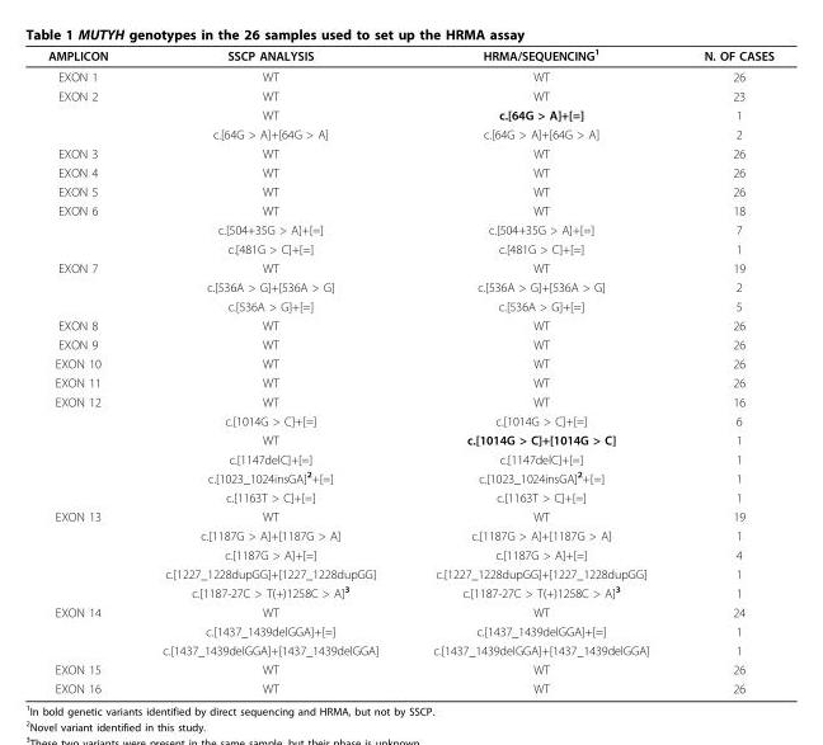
<table><thead><tr><td>AMPLICON</td><td>SSCP ANALYSIS</td><td>HRMA/SEQUENCING<sup>1</sup></td><td>N. OF CASES</td></tr></thead><tbody><tr><td>EXON 1</td><td>WT</td><td>WT</td><td>26</td></tr><tr><td rowspan="3">EXON 2</td><td>WT</td><td>WT</td><td>23</td></tr><tr><td>WT</td><td>c.[64G &gt; A]+[=]</td><td>1</td></tr><tr><td>c.[64G &gt; A]+[64G &gt; A]</td><td>c.[64G &gt; A]+[64G &gt; A]</td><td>2</td></tr><tr><td>EXON 3</td><td>WT</td><td>WT</td><td>26</td></tr><tr><td>EXON 4</td><td>WT</td><td>WT</td><td>26</td></tr><tr><td>EXON 5</td><td>WT</td><td>WT</td><td>26</td></tr><tr><td rowspan="3">EXON 6</td><td>WT</td><td>WT</td><td>18</td></tr><tr><td>c.[504+35G &gt; A]+[=]</td><td>c.[504+35G &gt; A]+[=]</td><td>7</td></tr><tr><td>c.[481G &gt; C]+[=]</td><td>c.[481G &gt; C]+[=]</td><td>1</td></tr><tr><td rowspan="3">EXON 7</td><td>WT</td><td>WT</td><td>19</td></tr><tr><td>c.[536A &gt; G]+[536A &gt; G]</td><td>c.[536A &gt; G]+[536A &gt; G]</td><td>2</td></tr><tr><td>c.[536A &gt; G]+[=]</td><td>c.[536A &gt; G]+[=]</td><td>5</td></tr><tr><td>EXON 8</td><td>WT</td><td>WT</td><td>26</td></tr><tr><td>EXON 9</td><td>WT</td><td>WT</td><td>26</td></tr><tr><td>EXON 10</td><td>WT</td><td>WT</td><td>26</td></tr><tr><td>EXON 11</td><td>WT</td><td>WT</td><td>26</td></tr><tr><td rowspan="6">EXON 12</td><td>WT</td><td>WT</td><td>16</td></tr><tr><td>c.[1014G &gt; C]+[=]</td><td>c.[1014G &gt; C]+[=]</td><td>6</td></tr><tr><td>WT</td><td>c.[1014G &gt; C]+[1014G &gt; C]</td><td>1</td></tr><tr><td>c.[1147delC]+[=]</td><td>c.[1147delC]+[=]</td><td>1</td></tr><tr><td>c.[1023_1024insGA]<sup>2</sup>+[=]</td><td>c.[1023_1024insGA]<sup>2</sup>+[=]</td><td>1</td></tr><tr><td>c.[1163T &gt; C]+[=]</td><td>c.[1163T &gt; C]+[=]</td><td>1</td></tr><tr><td rowspan="5">EXON 13</td><td>WT</td><td>WT</td><td>19</td></tr><tr><td>c.[1187G &gt; A]+[1187G &gt; A]</td><td>c.[1187G &gt; A]+[1187G &gt; A]</td><td>1</td></tr><tr><td>c.[1187G &gt; A]+[=]</td><td>c.[1187G &gt; A]+[=]</td><td>4</td></tr><tr><td>c.[1227_1228dupGG]+[1227_1228dupGG]</td><td>c.[1227_1228dupGG]+[1227_1228dupGG]</td><td>1</td></tr><tr><td>c.[1187-27C &gt; T(+)1258C &gt; A]<sup>3</sup></td><td>c.[1187-27C &gt; T(+)1258C &gt; A]<sup>3</sup></td><td>1</td></tr><tr><td rowspan="3">EXON 14</td><td>WT</td><td>WT</td><td>24</td></tr><tr><td>c.[1437_1439delGGA]+[=]</td><td>c.[1437_1439delGGA]+[=]</td><td>1</td></tr><tr><td>c.[1437_1439delGGA]+[1437_1439delGGA]</td><td>c.[1437_1439delGGA]+[1437_1439delGGA]</td><td>1</td></tr><tr><td>EXON 15</td><td>WT</td><td>WT</td><td>26</td></tr><tr><td>EXON 16</td><td>WT</td><td>WT</td><td>26</td></tr></tbody></table>